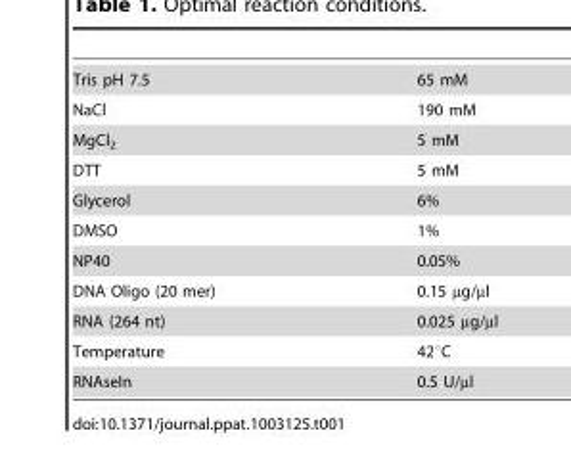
<table><tbody><tr><td>Tris pH 7.5</td><td>65 mM</td></tr><tr><td>NaCl</td><td>190 mM</td></tr><tr><td>MgCl<sub>2</sub></td><td>5 mM</td></tr><tr><td>DTT</td><td>5 mM</td></tr><tr><td>Glycerol</td><td>6%</td></tr><tr><td>DMSO</td><td>1%</td></tr><tr><td>NP40</td><td>0.05%</td></tr><tr><td>DNA Oligo (20 mer)</td><td>0.15 µg/µl</td></tr><tr><td>RNA (264 nt)</td><td>0.025 µg/µl</td></tr><tr><td>Temperature</td><td>42°C</td></tr><tr><td>RNAseIn</td><td>0.5 U/µl</td></tr></tbody></table>